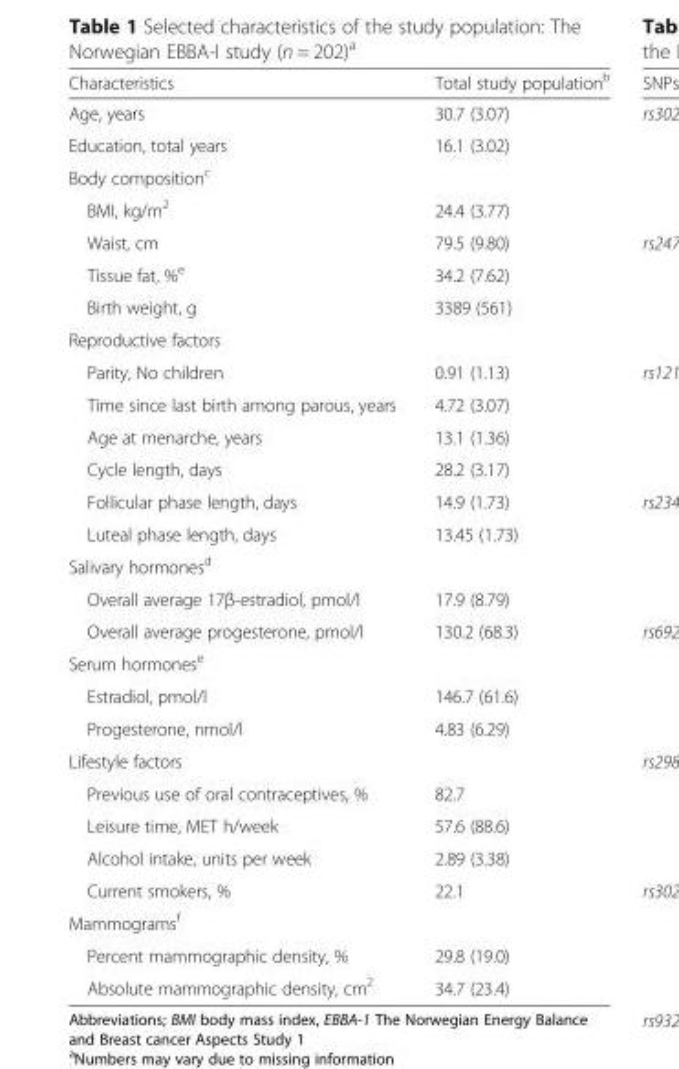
<table><thead><tr><td>Characteristics</td><td>Total study population<sup>b</sup></td></tr></thead><tbody><tr><td>Age, years</td><td>30.7 (3.07)</td></tr><tr><td>Education, total years</td><td>16.1 (3.02)</td></tr><tr><td colspan="2">Body composition<sup>c</sup></td></tr><tr><td>BMI, kg/m<sup>2</sup></td><td>24.4 (3.77)</td></tr><tr><td>Waist, cm</td><td>79.5 (9.80)</td></tr><tr><td>Tissue fat, %<sup>e</sup></td><td>34.2 (7.62)</td></tr><tr><td>Birth weight, g</td><td>3389 (561)</td></tr><tr><td colspan="2">Reproductive factors</td></tr><tr><td>Parity, No children</td><td>0.91 (1.13)</td></tr><tr><td>Time since last birth among parous, years</td><td>4.72 (3.07)</td></tr><tr><td>Age at menarche, years</td><td>13.1 (1.36)</td></tr><tr><td>Cycle length, days</td><td>28.2 (3.17)</td></tr><tr><td>Follicular phase length, days</td><td>14.9 (1.73)</td></tr><tr><td>Luteal phase length, days</td><td>13.45 (1.73)</td></tr><tr><td colspan="2">Salivary hormones<sup>d</sup></td></tr><tr><td>Overall average 17β-estradiol, pmol/l</td><td>17.9 (8.79)</td></tr><tr><td>Overall average progesterone, pmol/l</td><td>130.2 (68.3)</td></tr><tr><td colspan="2">Serum hormones<sup>e</sup></td></tr><tr><td>Estradiol, pmol/l</td><td>146.7 (61.6)</td></tr><tr><td>Progesterone, nmol/l</td><td>4.83 (6.29)</td></tr><tr><td colspan="2">Lifestyle factors</td></tr><tr><td>Previous use of oral contraceptives, %</td><td>82.7</td></tr><tr><td>Leisure time, MET h/week</td><td>57.6 (88.6)</td></tr><tr><td>Alcohol intake, units per week</td><td>2.89 (3.38)</td></tr><tr><td>Current smokers, %</td><td>22.1</td></tr><tr><td colspan="2">Mammograms<sup>f</sup></td></tr><tr><td>Percent mammographic density, %</td><td>29.8 (19.0)</td></tr><tr><td>Absolute mammographic density, cm<sup>2</sup></td><td>34.7 (23.4)</td></tr></tbody></table>